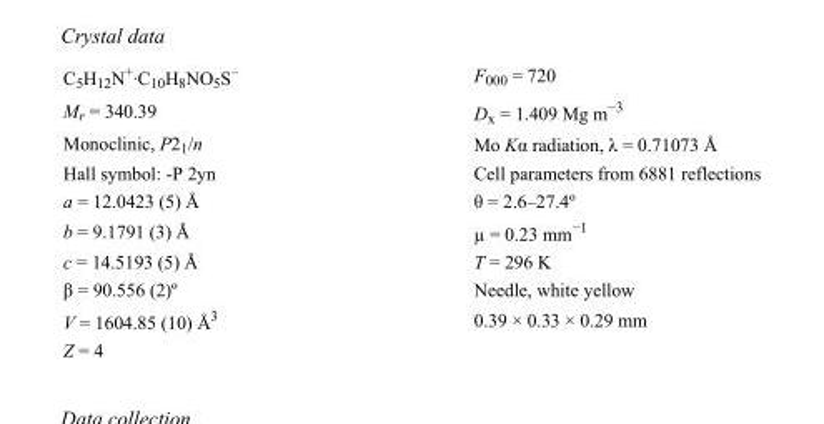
<table><tbody><tr><td>C<sub>5</sub>H<sub>12</sub>N<sup>+</sup>·C<sub>10</sub>H<sub>8</sub>NO<sub>5</sub>S<sup>–</sup></td><td>F000 = 720</td></tr><tr><td>M<sub>r</sub> = 340.39</td><td>D<sub>x</sub> = 1.409 Mg m<sup>−3</sup></td></tr><tr><td>Monoclinic, P2<sub>1</sub>/n</td><td>Mo Kα radiation, λ = 0.71073 Å</td></tr><tr><td>Hall symbol: -P 2yn</td><td>Cell parameters from 6881 reflections</td></tr><tr><td>a = 12.0423 (5) Å</td><td>θ = 2.6–27.4º</td></tr><tr><td>b = 9.1791 (3) Å</td><td>µ = 0.23 mm<sup>−1</sup></td></tr><tr><td>c = 14.5193 (5) Å</td><td>T = 296 K</td></tr><tr><td>β = 90.556 (2)º</td><td>Needle, white yellow</td></tr><tr><td>V = 1604.85 (10) Å<sup>3</sup></td><td>0.39 × 0.33 × 0.29 mm</td></tr><tr><td>Z = 4</td><td></td></tr></tbody></table>